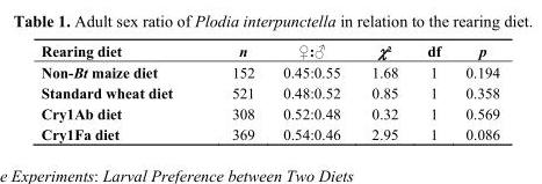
<table><thead><tr><td>Rearing diet</td><td>n</td><td>♀:♂</td><td>χ²</td><td>df</td><td>p</td></tr></thead><tbody><tr><td>Non-Bt maize diet</td><td>152</td><td>0.45:0.55</td><td>1.68</td><td>1</td><td>0.194</td></tr><tr><td>Standard wheat diet</td><td>521</td><td>0.48:0.52</td><td>0.85</td><td>1</td><td>0.358</td></tr><tr><td>Cry1Ab diet</td><td>308</td><td>0.52:0.48</td><td>0.32</td><td>1</td><td>0.569</td></tr><tr><td>Cry1Fa diet</td><td>369</td><td>0.54:0.46</td><td>2.95</td><td>1</td><td>0.086</td></tr></tbody></table>